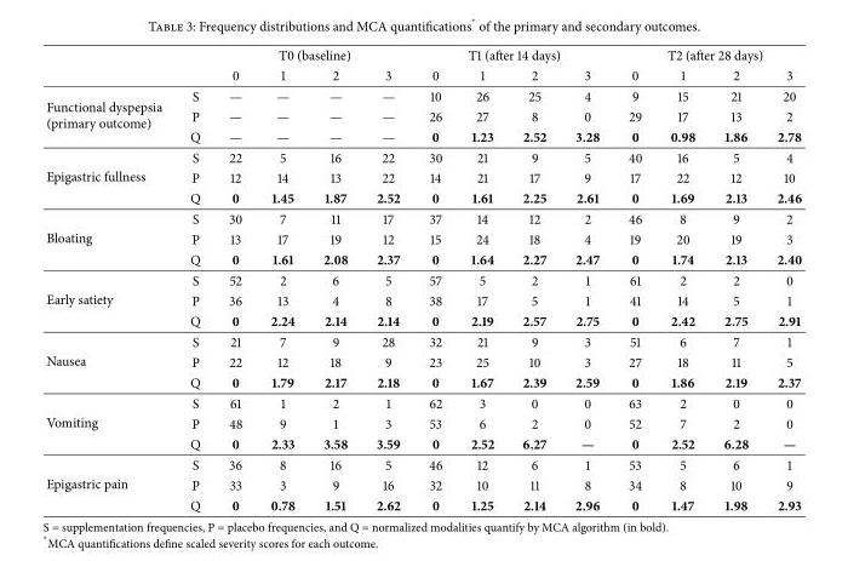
<table><thead><tr><td rowspan="2"></td><td rowspan="2"></td><td colspan="4">T0 (baseline)</td><td colspan="4">T1 (after 14 days)</td><td colspan="4">T2 (after 28 days)</td></tr><tr><td>0</td><td>1</td><td>2</td><td>3</td><td>0</td><td>1</td><td>2</td><td>3</td><td>0</td><td>1</td><td>2</td><td>3</td></tr></thead><tbody><tr><td rowspan="3">Functional dyspepsia (primary outcome)</td><td>S</td><td>—</td><td>—</td><td>—</td><td>—</td><td>10</td><td>26</td><td>25</td><td>4</td><td>9</td><td>15</td><td>21</td><td>20</td></tr><tr><td>P</td><td>—</td><td>—</td><td>—</td><td>—</td><td>26</td><td>27</td><td>8</td><td>0</td><td>29</td><td>17</td><td>13</td><td>2</td></tr><tr><td>Q</td><td>—</td><td>—</td><td>—</td><td>—</td><td>0</td><td>1.23</td><td>2.52</td><td>3.28</td><td>0</td><td>0.98</td><td>1.86</td><td>2.78</td></tr><tr><td rowspan="3">Epigastric fullness</td><td>S</td><td>22</td><td>5</td><td>16</td><td>22</td><td>30</td><td>21</td><td>9</td><td>5</td><td>40</td><td>16</td><td>5</td><td>4</td></tr><tr><td>P</td><td>12</td><td>14</td><td>13</td><td>22</td><td>14</td><td>21</td><td>17</td><td>9</td><td>17</td><td>22</td><td>12</td><td>10</td></tr><tr><td>Q</td><td>0</td><td>1.45</td><td>1.87</td><td>2.52</td><td>0</td><td>1.61</td><td>2.25</td><td>2.61</td><td>0</td><td>1.69</td><td>2.13</td><td>2.46</td></tr><tr><td rowspan="3">Bloating</td><td>S</td><td>30</td><td>7</td><td>11</td><td>17</td><td>37</td><td>14</td><td>12</td><td>2</td><td>46</td><td>8</td><td>9</td><td>2</td></tr><tr><td>P</td><td>13</td><td>17</td><td>19</td><td>12</td><td>15</td><td>24</td><td>18</td><td>4</td><td>19</td><td>20</td><td>19</td><td>3</td></tr><tr><td>Q</td><td>0</td><td>1.61</td><td>2.08</td><td>2.37</td><td>0</td><td>1.64</td><td>2.27</td><td>2.47</td><td>0</td><td>1.74</td><td>2.13</td><td>2.40</td></tr><tr><td rowspan="3">Early satiety</td><td>S</td><td>52</td><td>2</td><td>6</td><td>5</td><td>57</td><td>5</td><td>2</td><td>1</td><td>61</td><td>2</td><td>2</td><td>0</td></tr><tr><td>P</td><td>36</td><td>13</td><td>4</td><td>8</td><td>38</td><td>17</td><td>5</td><td>1</td><td>41</td><td>14</td><td>5</td><td>1</td></tr><tr><td>Q</td><td>0</td><td>2.24</td><td>2.14</td><td>2.14</td><td>0</td><td>2.19</td><td>2.57</td><td>2.75</td><td>0</td><td>2.42</td><td>2.75</td><td>2.91</td></tr><tr><td rowspan="3">Nausea</td><td>S</td><td>21</td><td>7</td><td>9</td><td>28</td><td>32</td><td>21</td><td>9</td><td>3</td><td>51</td><td>6</td><td>7</td><td>1</td></tr><tr><td>P</td><td>22</td><td>12</td><td>18</td><td>9</td><td>23</td><td>25</td><td>10</td><td>3</td><td>27</td><td>18</td><td>11</td><td>5</td></tr><tr><td>Q</td><td>0</td><td>1.79</td><td>2.17</td><td>2.18</td><td>0</td><td>1.67</td><td>2.39</td><td>2.59</td><td>0</td><td>1.86</td><td>2.19</td><td>2.37</td></tr><tr><td rowspan="3">Vomiting</td><td>S</td><td>61</td><td>1</td><td>2</td><td>1</td><td>62</td><td>3</td><td>0</td><td>0</td><td>63</td><td>2</td><td>0</td><td>0</td></tr><tr><td>P</td><td>48</td><td>9</td><td>1</td><td>3</td><td>53</td><td>6</td><td>2</td><td>0</td><td>52</td><td>7</td><td>2</td><td>0</td></tr><tr><td>Q</td><td>0</td><td>2.33</td><td>3.58</td><td>3.59</td><td>0</td><td>2.52</td><td>6.27</td><td>—</td><td>0</td><td>2.52</td><td>6.28</td><td>—</td></tr><tr><td rowspan="3">Epigastric pain</td><td>S</td><td>36</td><td>8</td><td>16</td><td>5</td><td>46</td><td>12</td><td>6</td><td>1</td><td>53</td><td>5</td><td>6</td><td>1</td></tr><tr><td>P</td><td>33</td><td>3</td><td>9</td><td>16</td><td>32</td><td>10</td><td>11</td><td>8</td><td>34</td><td>8</td><td>10</td><td>9</td></tr><tr><td>Q</td><td>0</td><td>0.78</td><td>1.51</td><td>2.62</td><td>0</td><td>1.25</td><td>2.14</td><td>2.96</td><td>0</td><td>1.47</td><td>1.98</td><td>2.93</td></tr></tbody></table>